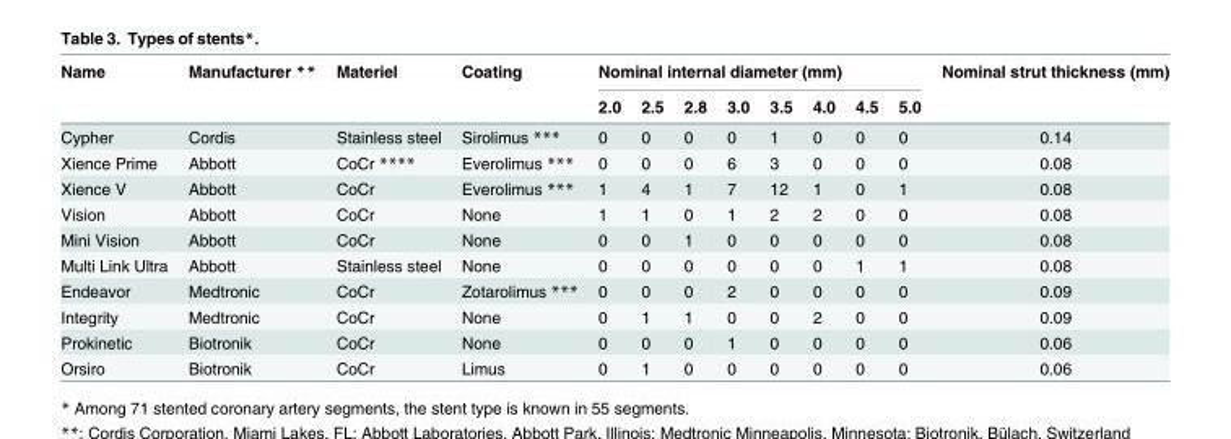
<table><thead><tr><td rowspan="2">Name</td><td rowspan="2">Manufacturer **</td><td rowspan="2">Materiel</td><td rowspan="2">Coating</td><td colspan="8">Nominal internal diameter (mm)</td><td rowspan="2">Nominal strut thickness (mm)</td></tr><tr><td>2.0</td><td>2.5</td><td>2.8</td><td>3.0</td><td>3.5</td><td>4.0</td><td>4.5</td><td>5.0</td></tr></thead><tbody><tr><td>Cypher</td><td>Cordis</td><td>Stainless steel</td><td>Sirolimus ***</td><td>0</td><td>0</td><td>0</td><td>0</td><td>1</td><td>0</td><td>0</td><td>0</td><td>0.14</td></tr><tr><td>Xience Prime</td><td>Abbott</td><td>CoCr ****</td><td>Everolimus ***</td><td>0</td><td>0</td><td>0</td><td>6</td><td>3</td><td>0</td><td>0</td><td>0</td><td>0.08</td></tr><tr><td>Xience V</td><td>Abbott</td><td>CoCr</td><td>Everolimus ***</td><td>1</td><td>4</td><td>1</td><td>7</td><td>12</td><td>1</td><td>0</td><td>1</td><td>0.08</td></tr><tr><td>Vision</td><td>Abbott</td><td>CoCr</td><td>None</td><td>1</td><td>1</td><td>0</td><td>1</td><td>2</td><td>2</td><td>0</td><td>0</td><td>0.08</td></tr><tr><td>Mini Vision</td><td>Abbott</td><td>CoCr</td><td>None</td><td>0</td><td>0</td><td>1</td><td>0</td><td>0</td><td>0</td><td>0</td><td>0</td><td>0.08</td></tr><tr><td>Multi Link Ultra</td><td>Abbott</td><td>Stainless steel</td><td>None</td><td>0</td><td>0</td><td>0</td><td>0</td><td>0</td><td>0</td><td>1</td><td>1</td><td>0.08</td></tr><tr><td>Endeavor</td><td>Medtronic</td><td>CoCr</td><td>Zotarolimus ***</td><td>0</td><td>0</td><td>0</td><td>2</td><td>0</td><td>0</td><td>0</td><td>0</td><td>0.09</td></tr><tr><td>Integrity</td><td>Medtronic</td><td>CoCr</td><td>None</td><td>0</td><td>1</td><td>1</td><td>0</td><td>0</td><td>2</td><td>0</td><td>0</td><td>0.09</td></tr><tr><td>Prokinetic</td><td>Biotronik</td><td>CoCr</td><td>None</td><td>0</td><td>0</td><td>0</td><td>1</td><td>0</td><td>0</td><td>0</td><td>0</td><td>0.06</td></tr><tr><td>Orsiro</td><td>Biotronik</td><td>CoCr</td><td>Limus</td><td>0</td><td>1</td><td>0</td><td>0</td><td>0</td><td>0</td><td>0</td><td>0</td><td>0.06</td></tr></tbody></table>